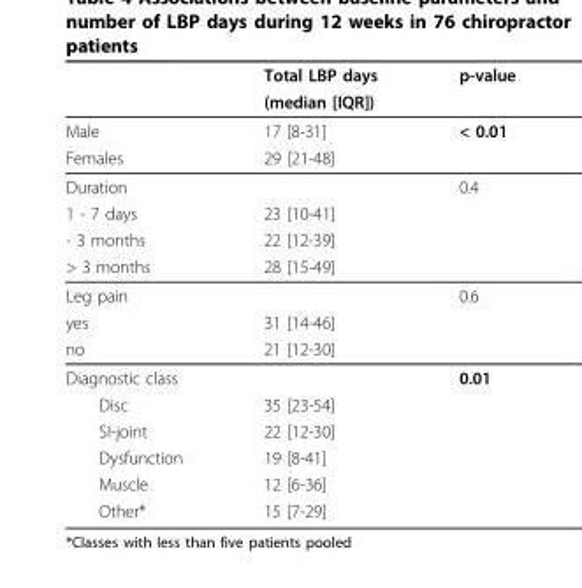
<table><thead><tr><td rowspan="2"></td><td rowspan="2">Total LBP days (median [IQR])</td><td rowspan="2">p-value</td></tr><tr></tr></thead><tbody><tr><td>Male</td><td>17 [8-31]</td><td>&lt; 0.01</td></tr><tr><td>Females</td><td>29 [21-48]</td><td></td></tr><tr><td>Duration</td><td></td><td>0.4</td></tr><tr><td>1 - 7 days</td><td>23 [10-41]</td><td></td></tr><tr><td>- 3 months</td><td>22 [12-39]</td><td></td></tr><tr><td>&gt; 3 months</td><td>28 [15-49]</td><td></td></tr><tr><td>Leg pain</td><td></td><td>0.6</td></tr><tr><td>yes</td><td>31 [14-46]</td><td></td></tr><tr><td>no</td><td>21 [12-30]</td><td></td></tr><tr><td>Diagnostic class</td><td></td><td>0.01</td></tr><tr><td>Disc</td><td>35 [23-54]</td><td></td></tr><tr><td>SI-joint</td><td>22 [12-30]</td><td></td></tr><tr><td>Dysfunction</td><td>19 [8-41]</td><td></td></tr><tr><td>Muscle</td><td>12 [6-36]</td><td></td></tr><tr><td>Other*</td><td>15 [7-29]</td><td></td></tr></tbody></table>